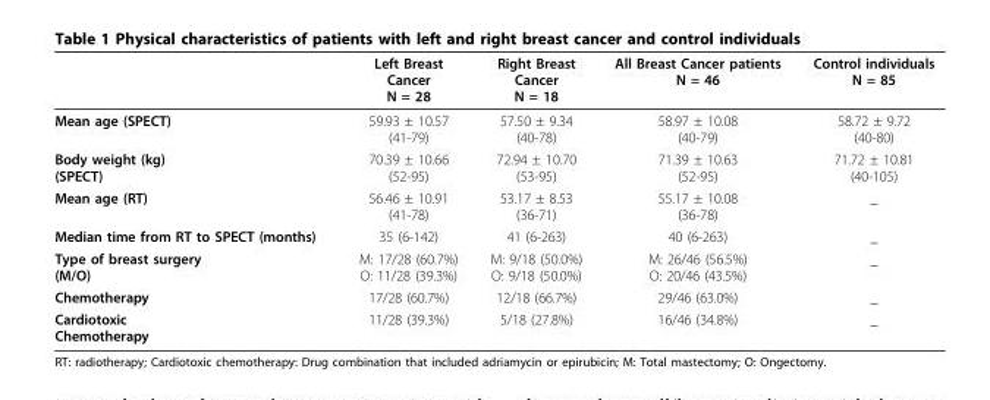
<table><thead><tr><td></td><td>Left Breast Cancer N = 28</td><td>Right Breast Cancer N = 18</td><td>All Breast Cancer patients N = 46</td><td>Control individuals N = 85</td></tr></thead><tbody><tr><td>Mean age (SPECT)</td><td>59.93 ± 10.57 (41-79)</td><td>57.50 ± 9.34 (40-78)</td><td>58.97 ± 10.08 (40-79)</td><td>58.72 ± 9.72 (40-80)</td></tr><tr><td>Body weight (kg) (SPECT)</td><td>70.39 ± 10.66 (52-95)</td><td>72.94 ± 10.70 (53-95)</td><td>71.39 ± 10.63 (52-95)</td><td>71.72 ± 10.81 (40-105)</td></tr><tr><td>Mean age (RT)</td><td>56.46 ± 10.91 (41-78)</td><td>53.17 ± 8.53 (36-71)</td><td>55.17 ± 10.08 (36-78)</td><td>_</td></tr><tr><td>Median time from RT to SPECT (months)</td><td>35 (6-142)</td><td>41 (6-263)</td><td>40 (6-263)</td><td>_</td></tr><tr><td>Type of breast surgery (M/O)</td><td>M: 17/28 (60.7%) O: 11/28 (39.3%)</td><td>M: 9/18 (50.0%) O: 9/18 (50.0%)</td><td>M: 26/46 (56.5%) O: 20/46 (43.5%)</td><td>_</td></tr><tr><td>Chemotherapy</td><td>17/28 (60.7%)</td><td>12/18 (66.7%)</td><td>29/46 (63.0%)</td><td>_</td></tr><tr><td>Cardiotoxic Chemotherapy</td><td>11/28 (39.3%)</td><td>5/18 (27.8%)</td><td>16/46 (34.8%)</td><td>_</td></tr></tbody></table>